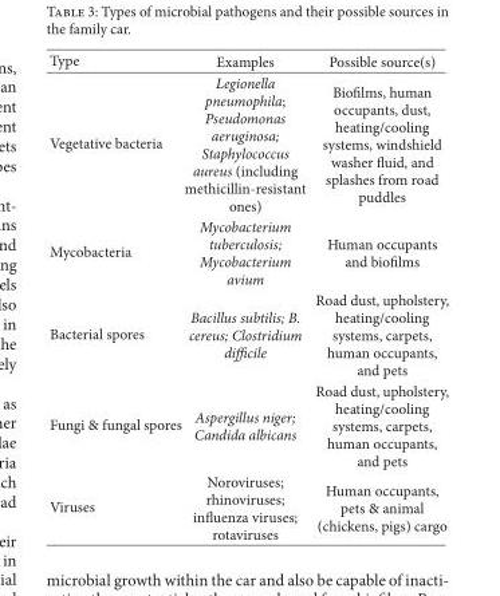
<table><thead><tr><td>Type</td><td>Examples</td><td>Possible source(s)</td></tr></thead><tbody><tr><td>Vegetative bacteria</td><td>Legionella pneumophila; Pseudomonas aeruginosa; Staphylococcus aureus (including methicillin-resistant ones)</td><td>Biofilms, human occupants, dust, heating/cooling systems, windshield washer fluid, and splashes from road puddles</td></tr><tr><td>Mycobacteria</td><td>Mycobacterium tuberculosis; Mycobacterium avium</td><td>Human occupants and biofilms</td></tr><tr><td>Bacterial spores</td><td>Bacillus subtilis; B. cereus; Clostridium difficile</td><td>Road dust, upholstery, heating/cooling systems, carpets, human occupants, and pets</td></tr><tr><td>Fungi &amp; fungal spores</td><td>Aspergillus niger; Candida albicans</td><td>Road dust, upholstery, heating/cooling systems, carpets, human occupants, and pets</td></tr><tr><td>Viruses</td><td>Noroviruses; rhinoviruses; influenza viruses; rotaviruses</td><td>Human occupants, pets &amp; animal (chickens, pigs) cargo</td></tr></tbody></table>